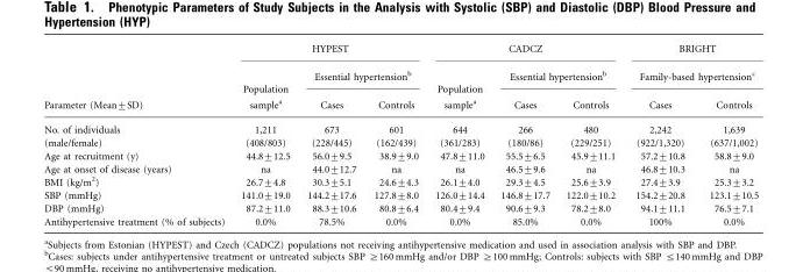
<table><thead><tr><td rowspan="3">Parameter (Mean±SD)</td><td colspan="3">HYPEST</td><td colspan="3">CADCZ</td><td rowspan="2" colspan="2">BRIGHT Family-based hypertension<sup>c</sup></td></tr><tr><td rowspan="2">Population sample<sup>a</sup></td><td colspan="2">Essential hypertension<sup>b</sup></td><td rowspan="2">Population sample<sup>a</sup></td><td colspan="2">Essential hypertension<sup>b</sup></td></tr><tr><td>Cases</td><td>Controls</td><td>Cases</td><td>Controls</td><td>Cases</td><td>Controls</td></tr></thead><tbody><tr><td>No. of individuals</td><td>1,211</td><td>673</td><td>601</td><td>644</td><td>266</td><td>480</td><td>2,242</td><td>1,639</td></tr><tr><td>(male/female)</td><td>(408/803)</td><td>(228/445)</td><td>(162/439)</td><td>(361/283)</td><td>(180/86)</td><td>(229/251)</td><td>(922/1,320)</td><td>(637/1,002)</td></tr><tr><td>Age at recruitment (y)</td><td>44.8±12.5</td><td>56.0±9.5</td><td>38.9±9.0</td><td>47.8±11.0</td><td>55.5±6.5</td><td>45.9±11.1</td><td>57.2±10.8</td><td>58.8±9.0</td></tr><tr><td>Age at onset of disease (years)</td><td>na</td><td>44.0±12.7</td><td>na</td><td>na</td><td>46.5±9.6</td><td>na</td><td>46.8±10.3</td><td>na</td></tr><tr><td>BMI (kg/m<sup>2</sup>)</td><td>26.7±4.8</td><td>30.3±5.1</td><td>24.6±4.3</td><td>26.1±4.0</td><td>29.3±4.5</td><td>25.6±3.9</td><td>27.4±3.9</td><td>25.3±3.2</td></tr><tr><td>SBP (mmHg)</td><td>141.0±19.0</td><td>144.2±17.6</td><td>127.8±8.0</td><td>126.0±14.4</td><td>146.8±17.7</td><td>122.0±10.2</td><td>154.2±20.8</td><td>123.1±10.5</td></tr><tr><td>DBP (mmHg)</td><td>87.2±11.0</td><td>88.3±10.6</td><td>80.8±6.4</td><td>80.4±9.4</td><td>90.6±9.3</td><td>78.2±8.0</td><td>94.1±11.1</td><td>76.5±7.1</td></tr><tr><td>Antihypertensive treatment (% of subjects)</td><td>0.0%</td><td>78.5%</td><td>0.0%</td><td>0.0%</td><td>85.0%</td><td>0.0%</td><td>100%</td><td>0.0%</td></tr></tbody></table>